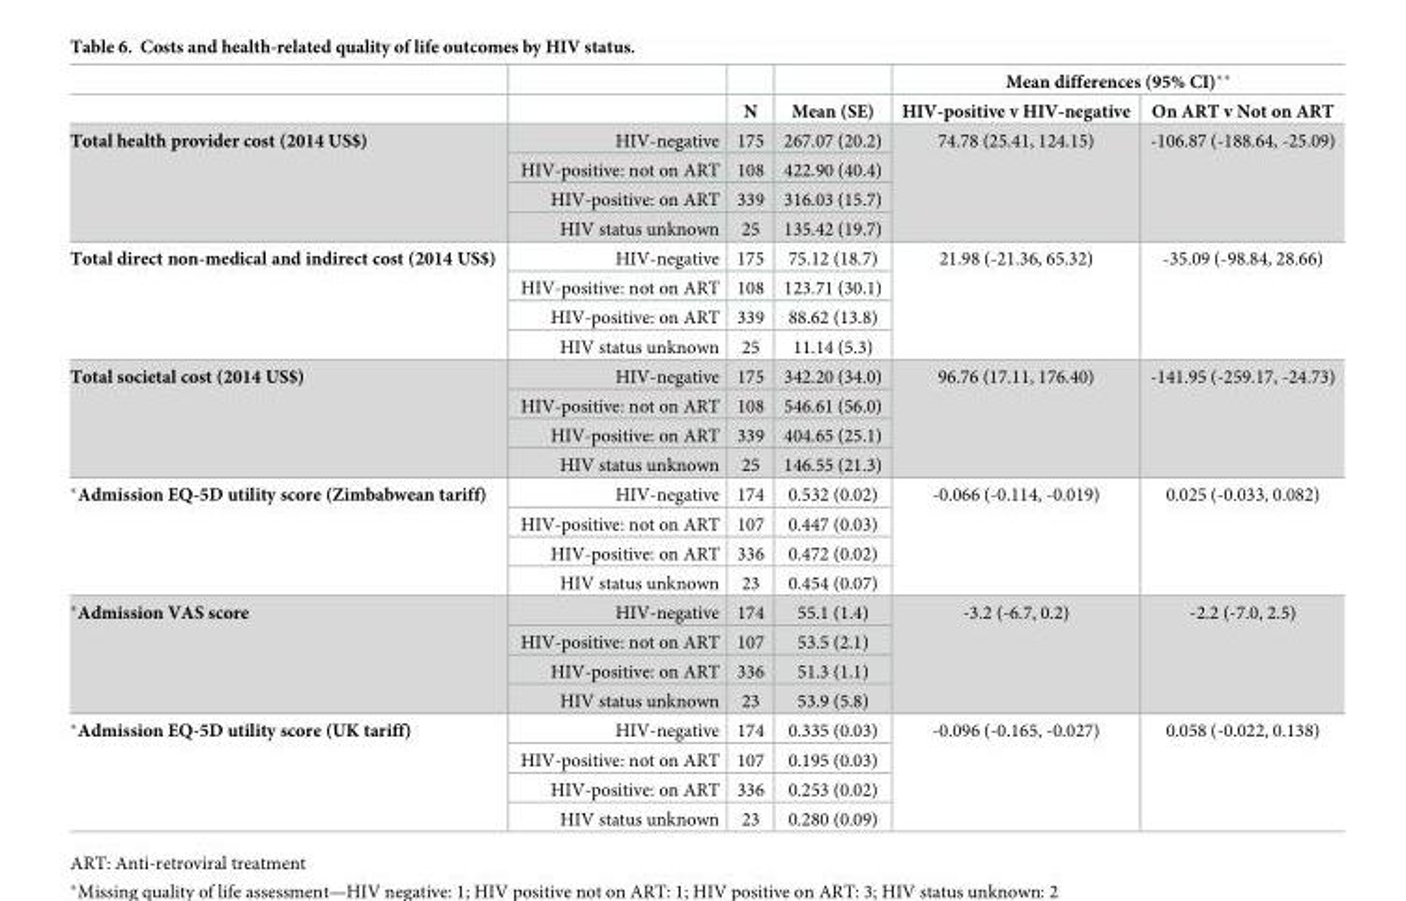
<table><thead><tr><td rowspan="2"></td><td rowspan="2"></td><td rowspan="2">N</td><td rowspan="2">Mean (SE)</td><td colspan="2">Mean differences (95% CI)**</td></tr><tr><td>HIV-positive v HIV-negative</td><td>On ART v Not on ART</td></tr></thead><tbody><tr><td rowspan="4">Total health provider cost (2014 US$)</td><td>HIV-negative</td><td>175</td><td>267.07 (20.2)</td><td rowspan="4">74.78 (25.41, 124.15)</td><td rowspan="4">-106.87 (-188.64, -25.09)</td></tr><tr><td>HIV-positive: not on ART</td><td>108</td><td>422.90 (40.4)</td></tr><tr><td>HIV-positive: on ART</td><td>339</td><td>316.03 (15.7)</td></tr><tr><td>HIV status unknown</td><td>25</td><td>135.42 (19.7)</td></tr><tr><td rowspan="4">Total direct non-medical and indirect cost (2014 US$)</td><td>HIV-negative</td><td>175</td><td>75.12 (18.7)</td><td rowspan="4">21.98 (-21.36, 65.32)</td><td rowspan="4">-35.09 (-98.84, 28.66)</td></tr><tr><td>HIV-positive: not on ART</td><td>108</td><td>123.71 (30.1)</td></tr><tr><td>HIV-positive: on ART</td><td>339</td><td>88.62 (13.8)</td></tr><tr><td>HIV status unknown</td><td>25</td><td>11.14 (5.3)</td></tr><tr><td rowspan="4">Total societal cost (2014 US$)</td><td>HIV-negative</td><td>175</td><td>342.20 (34.0)</td><td rowspan="4">96.76 (17.11, 176.40)</td><td rowspan="4">-141.95 (-259.17, -24.73)</td></tr><tr><td>HIV-positive: not on ART</td><td>108</td><td>546.61 (56.0)</td></tr><tr><td>HIV-positive: on ART</td><td>339</td><td>404.65 (25.1)</td></tr><tr><td>HIV status unknown</td><td>25</td><td>146.55 (21.3)</td></tr><tr><td rowspan="4">*Admission EQ-5D utility score (Zimbabwean tariff)</td><td>HIV-negative</td><td>174</td><td>0.532 (0.02)</td><td rowspan="4">-0.066 (-0.114, -0.019)</td><td rowspan="4">0.025 (-0.033, 0.082)</td></tr><tr><td>HIV-positive: not on ART</td><td>107</td><td>0.447 (0.03)</td></tr><tr><td>HIV-positive: on ART</td><td>336</td><td>0.472 (0.02)</td></tr><tr><td>HIV status unknown</td><td>23</td><td>0.454 (0.07)</td></tr><tr><td rowspan="4">*Admission VAS score</td><td>HIV-negative</td><td>174</td><td>55.1 (1.4)</td><td rowspan="4">-3.2 (-6.7, 0.2)</td><td rowspan="4">-2.2 (-7.0, 2.5)</td></tr><tr><td>HIV-positive: not on ART</td><td>107</td><td>53.5 (2.1)</td></tr><tr><td>HIV-positive: on ART</td><td>336</td><td>51.3 (1.1)</td></tr><tr><td>HIV status unknown</td><td>23</td><td>53.9 (5.8)</td></tr><tr><td rowspan="4">*Admission EQ-5D utility score (UK tariff)</td><td>HIV-negative</td><td>174</td><td>0.335 (0.03)</td><td rowspan="4">-0.096 (-0.165, -0.027)</td><td rowspan="4">0.058 (-0.022, 0.138)</td></tr><tr><td>HIV-positive: not on ART</td><td>107</td><td>0.195 (0.03)</td></tr><tr><td>HIV-positive: on ART</td><td>336</td><td>0.253 (0.02)</td></tr><tr><td>HIV status unknown</td><td>23</td><td>0.280 (0.09)</td></tr></tbody></table>